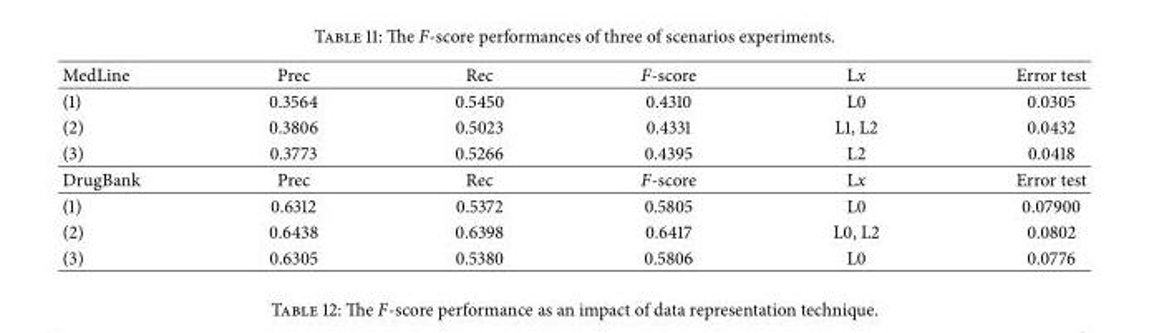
<table><thead><tr><td>MedLine</td><td>Prec</td><td>Rec</td><td>F-score</td><td>Lx</td><td>Error test</td></tr></thead><tbody><tr><td>(1)</td><td>0.3564</td><td>0.5450</td><td>0.4310</td><td>L0</td><td>0.0305</td></tr><tr><td>(2)</td><td>0.3806</td><td>0.5023</td><td>0.4331</td><td>L1, L2</td><td>0.0432</td></tr><tr><td>(3)</td><td>0.3773</td><td>0.5266</td><td>0.4395</td><td>L2</td><td>0.0418</td></tr><tr><td>DrugBank</td><td>Prec</td><td>Rec</td><td>F-score</td><td>Lx</td><td>Error test</td></tr><tr><td>(1)</td><td>0.6312</td><td>0.5372</td><td>0.5805</td><td>L0</td><td>0.07900</td></tr><tr><td>(2)</td><td>0.6438</td><td>0.6398</td><td>0.6417</td><td>L0, L2</td><td>0.0802</td></tr><tr><td>(3)</td><td>0.6305</td><td>0.5380</td><td>0.5806</td><td>L0</td><td>0.0776</td></tr></tbody></table>